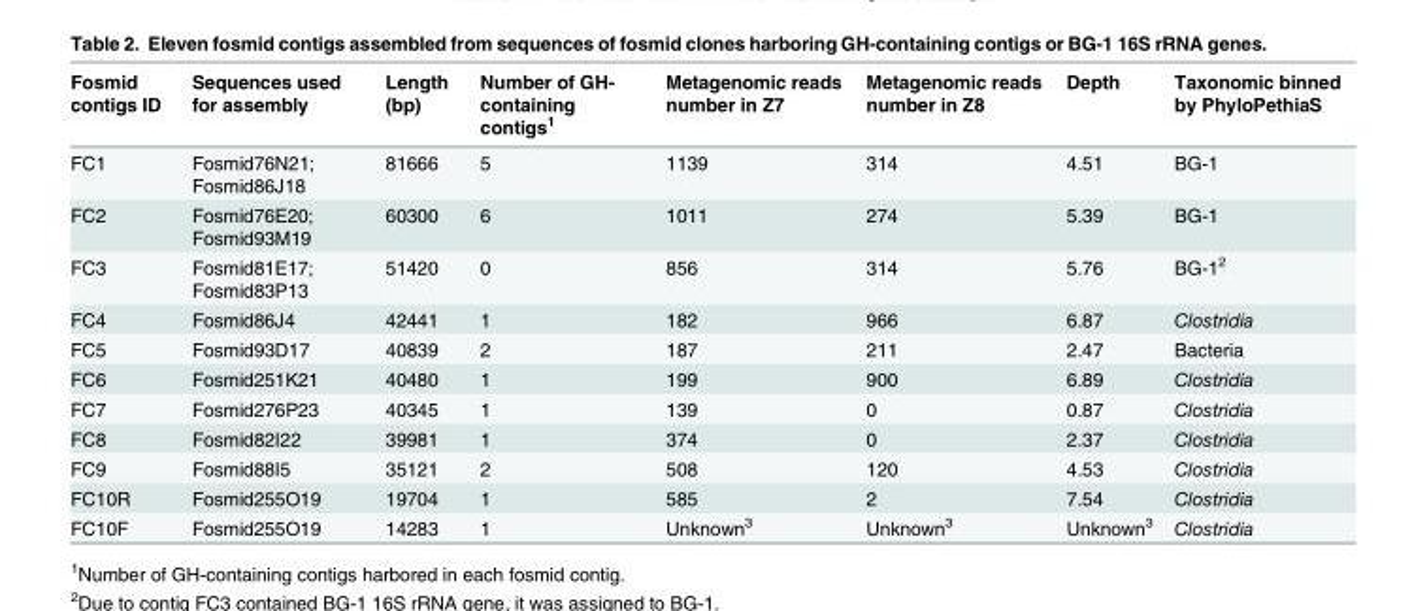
<table><thead><tr><td>Fosmid contigs ID</td><td>Sequences used for assembly</td><td>Length (bp)</td><td>Number of GH- containing contigs<sup>1</sup></td><td>Metagenomic reads number in Z7</td><td>Metagenomic reads number in Z8</td><td>Depth</td><td>Taxonomic binned by PhyloPethiaS</td></tr></thead><tbody><tr><td>FC1</td><td>Fosmid76N21; Fosmid86J18</td><td>81666</td><td>5</td><td>1139</td><td>314</td><td>4.51</td><td>BG-1</td></tr><tr><td>FC2</td><td>Fosmid76E20; Fosmid93M19</td><td>60300</td><td>6</td><td>1011</td><td>274</td><td>5.39</td><td>BG-1</td></tr><tr><td>FC3</td><td>Fosmid81E17; Fosmid83P13</td><td>51420</td><td>0</td><td>856</td><td>314</td><td>5.76</td><td>BG-1<sup>2</sup></td></tr><tr><td>FC4</td><td>Fosmid86J4</td><td>42441</td><td>1</td><td>182</td><td>966</td><td>6.87</td><td>Clostridia</td></tr><tr><td>FC5</td><td>Fosmid93D17</td><td>40839</td><td>2</td><td>187</td><td>211</td><td>2.47</td><td>Bacteria</td></tr><tr><td>FC6</td><td>Fosmid251K21</td><td>40480</td><td>1</td><td>199</td><td>900</td><td>6.89</td><td>Clostridia</td></tr><tr><td>FC7</td><td>Fosmid276P23</td><td>40345</td><td>1</td><td>139</td><td>0</td><td>0.87</td><td>Clostridia</td></tr><tr><td>FC8</td><td>Fosmid82I22</td><td>39981</td><td>1</td><td>374</td><td>0</td><td>2.37</td><td>Clostridia</td></tr><tr><td>FC9</td><td>Fosmid88I5</td><td>35121</td><td>2</td><td>508</td><td>120</td><td>4.53</td><td>Clostridia</td></tr><tr><td>FC10R</td><td>Fosmid255O19</td><td>19704</td><td>1</td><td>585</td><td>2</td><td>7.54</td><td>Clostridia</td></tr><tr><td>FC10F</td><td>Fosmid255O19</td><td>14283</td><td>1</td><td>Unknown<sup>3</sup></td><td>Unknown<sup>3</sup></td><td>Unknown<sup>3</sup></td><td>Clostridia</td></tr></tbody></table>